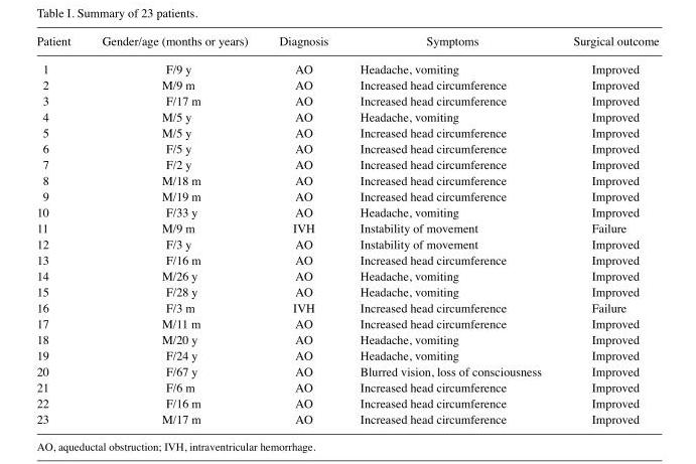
<table><thead><tr><td>Patient</td><td>Gender/age (months or years)</td><td>Diagnosis</td><td>Symptoms</td><td>Surgical outcome</td></tr></thead><tbody><tr><td>1</td><td>F/9 y</td><td>AO</td><td>Headache, vomiting</td><td>Improved</td></tr><tr><td>2</td><td>M/9 m</td><td>AO</td><td>Increased head circumference</td><td>Improved</td></tr><tr><td>3</td><td>F/17 m</td><td>AO</td><td>Increased head circumference</td><td>Improved</td></tr><tr><td>4</td><td>M/5 y</td><td>AO</td><td>Headache, vomiting</td><td>Improved</td></tr><tr><td>5</td><td>M/5 y</td><td>AO</td><td>Increased head circumference</td><td>Improved</td></tr><tr><td>6</td><td>F/5 y</td><td>AO</td><td>Increased head circumference</td><td>Improved</td></tr><tr><td>7</td><td>F/2 y</td><td>AO</td><td>Increased head circumference</td><td>Improved</td></tr><tr><td>8</td><td>M/18 m</td><td>AO</td><td>Increased head circumference</td><td>Improved</td></tr><tr><td>9</td><td>M/19 m</td><td>AO</td><td>Increased head circumference</td><td>Improved</td></tr><tr><td>10</td><td>F/33 y</td><td>AO</td><td>Headache, vomiting</td><td>Improved</td></tr><tr><td>11</td><td>M/9 m</td><td>IVH</td><td>Instability of movement</td><td>Failure</td></tr><tr><td>12</td><td>F/3 y</td><td>AO</td><td>Instability of movement</td><td>Improved</td></tr><tr><td>13</td><td>F/16 m</td><td>AO</td><td>Increased head circumference</td><td>Improved</td></tr><tr><td>14</td><td>M/26 y</td><td>AO</td><td>Headache, vomiting</td><td>Improved</td></tr><tr><td>15</td><td>F/28 y</td><td>AO</td><td>Headache, vomiting</td><td>Improved</td></tr><tr><td>16</td><td>F/3 m</td><td>IVH</td><td>Increased head circumference</td><td>Failure</td></tr><tr><td>17</td><td>M/11 m</td><td>AO</td><td>Increased head circumference</td><td>Improved</td></tr><tr><td>18</td><td>M/20 y</td><td>AO</td><td>Headache, vomiting</td><td>Improved</td></tr><tr><td>19</td><td>F/24 y</td><td>AO</td><td>Headache, vomiting</td><td>Improved</td></tr><tr><td>20</td><td>F/67 y</td><td>AO</td><td>Blurred vision, loss of consciousness</td><td>Improved</td></tr><tr><td>21</td><td>F/6 m</td><td>AO</td><td>Increased head circumference</td><td>Improved</td></tr><tr><td>22</td><td>F/16 m</td><td>AO</td><td>Increased head circumference</td><td>Improved</td></tr><tr><td>23</td><td>M/17 m</td><td>AO</td><td>Increased head circumference</td><td>Improved</td></tr></tbody></table>